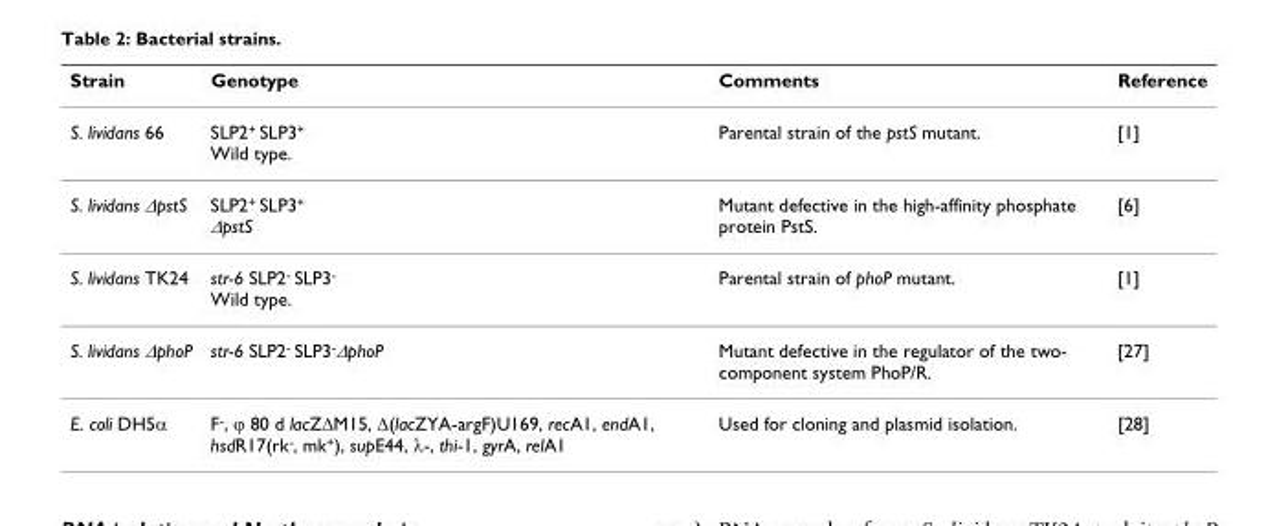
<table><thead><tr><td>Strain</td><td>Genotype</td><td>Comments</td><td>Reference</td></tr></thead><tbody><tr><td>S. lividans 66</td><td>SLP2<sup>+</sup> SLP3<sup>+</sup> Wild type.</td><td>Parental strain of the pstS mutant.</td><td>[1]</td></tr><tr><td>S. lividans ΔpstS</td><td>SLP2<sup>+</sup> SLP3<sup>+</sup> ΔpstS</td><td>Mutant defective in the high-affinity phosphate protein PstS.</td><td>[6]</td></tr><tr><td>S. lividans TK24</td><td>str-6 SLP2<sup>-</sup> SLP3<sup>-</sup> Wild type.</td><td>Parental strain of phoP mutant.</td><td>[1]</td></tr><tr><td>S. lividans ΔphoP</td><td>str-6 SLP2<sup>-</sup> SLP3<sup>-</sup>ΔphoP</td><td>Mutant defective in the regulator of the two- component system PhoP/R.</td><td>[27]</td></tr><tr><td>E. coli DH5α</td><td>F<sup>-</sup>, ϕ 80 d lacZΔM15, Δ(lacZYA-argF)U169, recA1, endA1, hsdR17(rk<sup>-</sup>, mk<sup>+</sup>), supE44, λ-, thi-1, gyrA, relA1</td><td>Used for cloning and plasmid isolation.</td><td>[28]</td></tr></tbody></table>